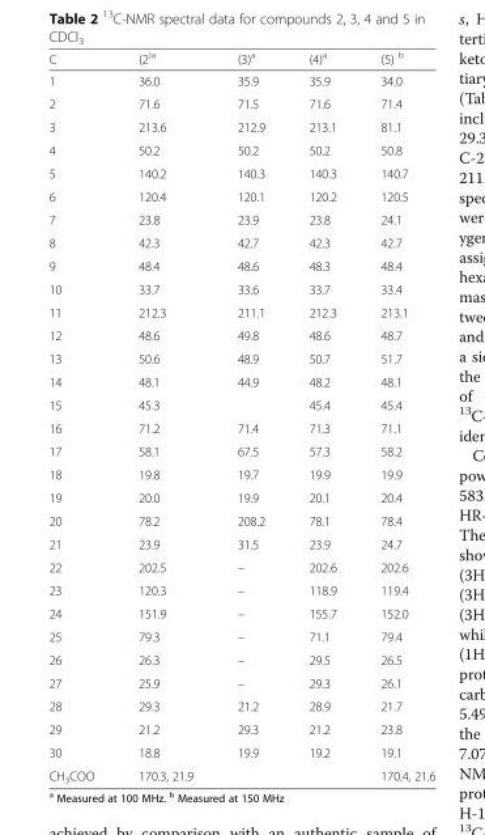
<table><thead><tr><td>C</td><td>(2<sup>)a</sup></td><td>(3)<sup>a</sup></td><td>(4)<sup>a</sup></td><td>(5) <sup>b</sup></td></tr></thead><tbody><tr><td>1</td><td>36.0</td><td>35.9</td><td>35.9</td><td>34.0</td></tr><tr><td>2</td><td>71.6</td><td>71.5</td><td>71.6</td><td>71.4</td></tr><tr><td>3</td><td>213.6</td><td>212.9</td><td>213.1</td><td>81.1</td></tr><tr><td>4</td><td>50.2</td><td>50.2</td><td>50.2</td><td>50.8</td></tr><tr><td>5</td><td>140.2</td><td>140.3</td><td>140.3</td><td>140.7</td></tr><tr><td>6</td><td>120.4</td><td>120.1</td><td>120.2</td><td>120.5</td></tr><tr><td>7</td><td>23.8</td><td>23.9</td><td>23.8</td><td>24.1</td></tr><tr><td>8</td><td>42.3</td><td>42.7</td><td>42.3</td><td>42.7</td></tr><tr><td>9</td><td>48.4</td><td>48.6</td><td>48.3</td><td>48.4</td></tr><tr><td>10</td><td>33.7</td><td>33.6</td><td>33.7</td><td>33.4</td></tr><tr><td>11</td><td>212.3</td><td>211.1</td><td>212.3</td><td>213.1</td></tr><tr><td>12</td><td>48.6</td><td>49.8</td><td>48.6</td><td>48.7</td></tr><tr><td>13</td><td>50.6</td><td>48.9</td><td>50.7</td><td>51.7</td></tr><tr><td>14</td><td>48.1</td><td>44.9</td><td>48.2</td><td>48.1</td></tr><tr><td>15</td><td>45.3</td><td></td><td>45.4</td><td>45.4</td></tr><tr><td>16</td><td>71.2</td><td>71.4</td><td>71.3</td><td>71.1</td></tr><tr><td>17</td><td>58.1</td><td>67.5</td><td>57.3</td><td>58.2</td></tr><tr><td>18</td><td>19.8</td><td>19.7</td><td>19.9</td><td>19.9</td></tr><tr><td>19</td><td>20.0</td><td>19.9</td><td>20.1</td><td>20.4</td></tr><tr><td>20</td><td>78.2</td><td>208.2</td><td>78.1</td><td>78.4</td></tr><tr><td>21</td><td>23.9</td><td>31.5</td><td>23.9</td><td>24.7</td></tr><tr><td>22</td><td>202.5</td><td>–</td><td>202.6</td><td>202.6</td></tr><tr><td>23</td><td>120.3</td><td>–</td><td>118.9</td><td>119.4</td></tr><tr><td>24</td><td>151.9</td><td>–</td><td>155.7</td><td>152.0</td></tr><tr><td>25</td><td>79.3</td><td>–</td><td>71.1</td><td>79.4</td></tr><tr><td>26</td><td>26.3</td><td>–</td><td>29.5</td><td>26.5</td></tr><tr><td>27</td><td>25.9</td><td>–</td><td>29.3</td><td>26.1</td></tr><tr><td>28</td><td>29.3</td><td>21.2</td><td>28.9</td><td>21.7</td></tr><tr><td>29</td><td>21.2</td><td>29.3</td><td>21.2</td><td>23.8</td></tr><tr><td>30</td><td>18.8</td><td>19.9</td><td>19.2</td><td>19.1</td></tr><tr><td>CH<sub>3</sub>COO</td><td>170.3, 21.9</td><td></td><td></td><td>170.4, 21.6</td></tr></tbody></table>